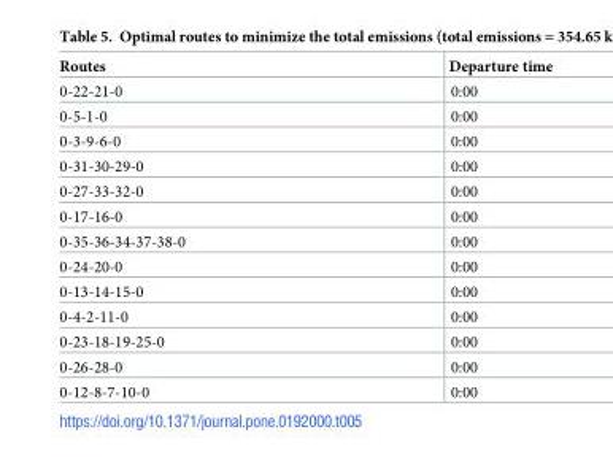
<table><thead><tr><td>Routes</td><td>Departure time</td></tr></thead><tbody><tr><td>0-22-21-0</td><td>0:00</td></tr><tr><td>0-5-1-0</td><td>0:00</td></tr><tr><td>0-3-9-6-0</td><td>0:00</td></tr><tr><td>0-31-30-29-0</td><td>0:00</td></tr><tr><td>0-27-33-32-0</td><td>0:00</td></tr><tr><td>0-17-16-0</td><td>0:00</td></tr><tr><td>0-35-36-34-37-38-0</td><td>0:00</td></tr><tr><td>0-24-20-0</td><td>0:00</td></tr><tr><td>0-13-14-15-0</td><td>0:00</td></tr><tr><td>0-4-2-11-0</td><td>0:00</td></tr><tr><td>0-23-18-19-25-0</td><td>0:00</td></tr><tr><td>0-26-28-0</td><td>0:00</td></tr><tr><td>0-12-8-7-10-0</td><td>0:00</td></tr></tbody></table>